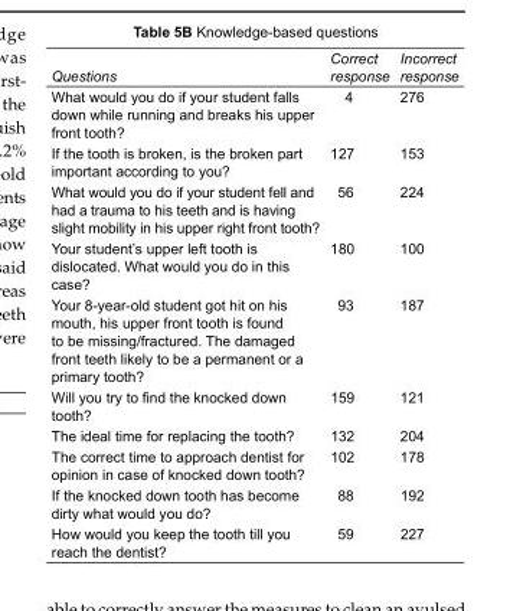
<table><tbody><tr><td>Questions</td><td>Correct response</td><td>Incorrect response</td></tr><tr><td>What would you do if your student falls down while running and breaks his upper front tooth?</td><td>4</td><td>276</td></tr><tr><td>If the tooth is broken, is the broken part important according to you?</td><td>127</td><td>153</td></tr><tr><td>What would you do if your student fell and had a trauma to his teeth and is having slight mobility in his upper right front tooth?</td><td>56</td><td>224</td></tr><tr><td>Your student’s upper left tooth is dislocated. What would you do in this case?</td><td>180</td><td>100</td></tr><tr><td>Your 8-year-old student got hit on his mouth, his upper front tooth is found to be missing/fractured. The damaged front teeth likely to be a permanent or a primary tooth?</td><td>93</td><td>187</td></tr><tr><td>Will you try to find the knocked down tooth?</td><td>159</td><td>121</td></tr><tr><td>The ideal time for replacing the tooth?</td><td>132</td><td>204</td></tr><tr><td>The correct time to approach dentist for opinion in case of knocked down tooth?</td><td>102</td><td>178</td></tr><tr><td>If the knocked down tooth has become dirty what would you do?</td><td>88</td><td>192</td></tr><tr><td>How would you keep the tooth till you reach the dentist?</td><td>59</td><td>227</td></tr></tbody></table>